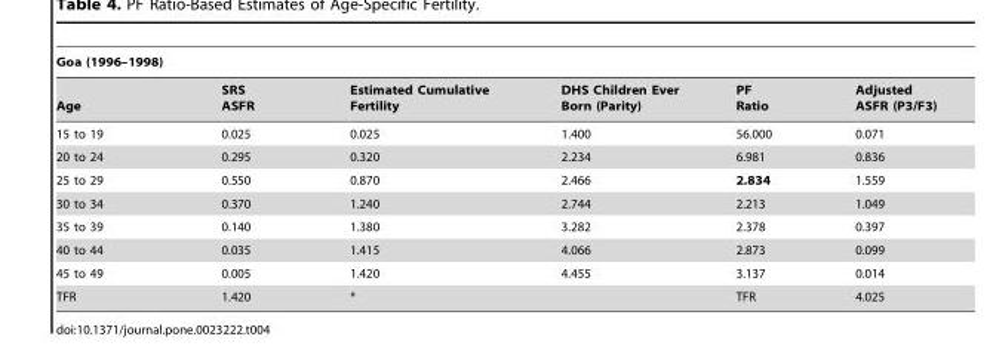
<table><thead><tr><td colspan="6">Goa (1996–1998)</td></tr><tr><td>Age</td><td>SRS ASFR</td><td>Estimated Cumulative Fertility</td><td>DHS Children Ever Born (Parity)</td><td>PF Ratio</td><td>Adjusted ASFR (P3/F3)</td></tr></thead><tbody><tr><td>15 to 19</td><td>0.025</td><td>0.025</td><td>1.400</td><td>56.000</td><td>0.071</td></tr><tr><td>20 to 24</td><td>0.295</td><td>0.320</td><td>2.234</td><td>6.981</td><td>0.836</td></tr><tr><td>25 to 29</td><td>0.550</td><td>0.870</td><td>2.466</td><td>2.834</td><td>1.559</td></tr><tr><td>30 to 34</td><td>0.370</td><td>1.240</td><td>2.744</td><td>2.213</td><td>1.049</td></tr><tr><td>35 to 39</td><td>0.140</td><td>1.380</td><td>3.282</td><td>2.378</td><td>0.397</td></tr><tr><td>40 to 44</td><td>0.035</td><td>1.415</td><td>4.066</td><td>2.873</td><td>0.099</td></tr><tr><td>45 to 49</td><td>0.005</td><td>1.420</td><td>4.455</td><td>3.137</td><td>0.014</td></tr><tr><td>TFR</td><td>1.420</td><td>*</td><td></td><td>TFR</td><td>4.025</td></tr></tbody></table>